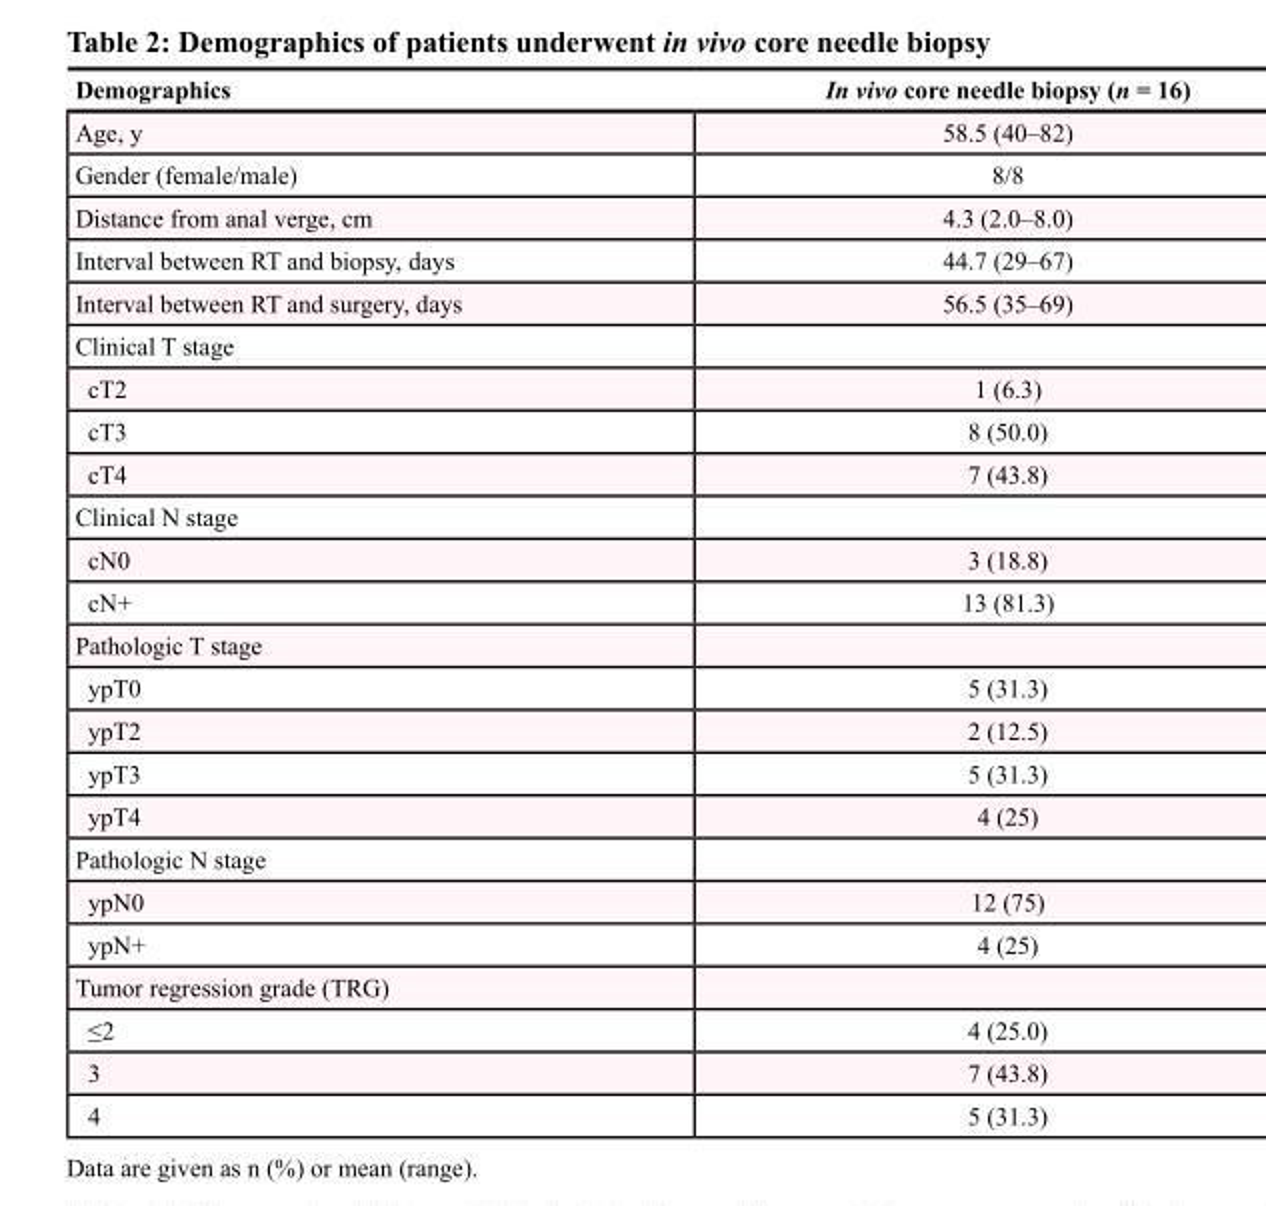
<table><thead><tr><td>Demographics</td><td>In vivo core needle biopsy (n = 16)</td></tr></thead><tbody><tr><td>Age, y</td><td>58.5 (40–82)</td></tr><tr><td>Gender (female/male)</td><td>8/8</td></tr><tr><td>Distance from anal verge, cm</td><td>4.3 (2.0–8.0)</td></tr><tr><td>Interval between RT and biopsy, days</td><td>44.7 (29–67)</td></tr><tr><td>Interval between RT and surgery, days</td><td>56.5 (35–69)</td></tr><tr><td colspan="2">Clinical T stage</td></tr><tr><td>cT2</td><td>1 (6.3)</td></tr><tr><td>cT3</td><td>8 (50.0)</td></tr><tr><td>cT4</td><td>7 (43.8)</td></tr><tr><td colspan="2">Clinical N stage</td></tr><tr><td>cN0</td><td>3 (18.8)</td></tr><tr><td>cN+</td><td>13 (81.3)</td></tr><tr><td colspan="2">Pathologic T stage</td></tr><tr><td>ypT0</td><td>5 (31.3)</td></tr><tr><td>ypT2</td><td>2 (12.5)</td></tr><tr><td>ypT3</td><td>5 (31.3)</td></tr><tr><td>ypT4</td><td>4 (25)</td></tr><tr><td colspan="2">Pathologic N stage</td></tr><tr><td>ypN0</td><td>12 (75)</td></tr><tr><td>ypN+</td><td>4 (25)</td></tr><tr><td colspan="2">Tumor regression grade (TRG)</td></tr><tr><td>≤2</td><td>4 (25.0)</td></tr><tr><td>3</td><td>7 (43.8)</td></tr><tr><td>4</td><td>5 (31.3)</td></tr></tbody></table>